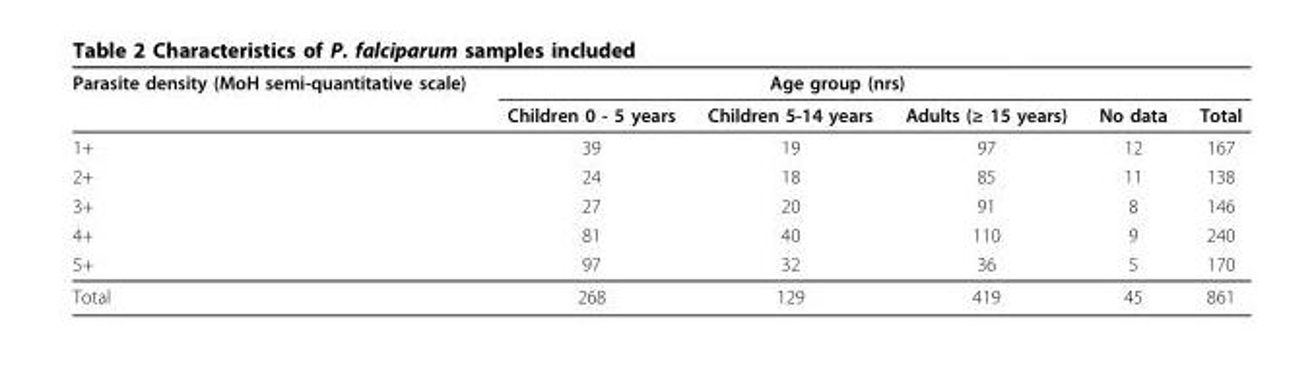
<table><thead><tr><td rowspan="2">Parasite density (MoH semi-quantitative scale)</td><td colspan="4">Age group (nrs)</td><td rowspan="2">Total</td></tr><tr><td>Children 0 - 5 years</td><td>Children 5-14 years</td><td>Adults (≥ 15 years)</td><td>No data</td></tr></thead><tbody><tr><td>1+</td><td>39</td><td>19</td><td>97</td><td>12</td><td>167</td></tr><tr><td>2+</td><td>24</td><td>18</td><td>85</td><td>11</td><td>138</td></tr><tr><td>3+</td><td>27</td><td>20</td><td>91</td><td>8</td><td>146</td></tr><tr><td>4+</td><td>81</td><td>40</td><td>110</td><td>9</td><td>240</td></tr><tr><td>5+</td><td>97</td><td>32</td><td>36</td><td>5</td><td>170</td></tr><tr><td>Total</td><td>268</td><td>129</td><td>419</td><td>45</td><td>861</td></tr></tbody></table>